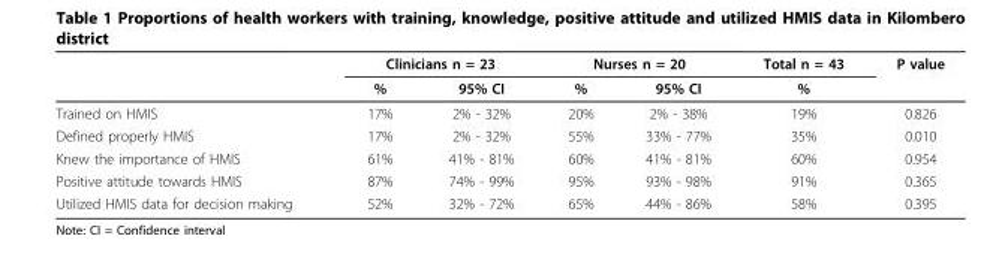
<table><thead><tr><td rowspan="2"></td><td colspan="2">Clinicians n = 23</td><td colspan="2">Nurses n = 20</td><td rowspan="2">Total n = 43 %</td><td rowspan="2">P value</td></tr><tr><td>%</td><td>95% CI</td><td>%</td><td>95% CI</td></tr></thead><tbody><tr><td>Trained on HMIS</td><td>17%</td><td>2% - 32%</td><td>20%</td><td>2% - 38%</td><td>19%</td><td>0.826</td></tr><tr><td>Defined properly HMIS</td><td>17%</td><td>2% - 32%</td><td>55%</td><td>33% - 77%</td><td>35%</td><td>0.010</td></tr><tr><td>Knew the importance of HMIS</td><td>61%</td><td>41% - 81%</td><td>60%</td><td>41% - 81%</td><td>60%</td><td>0.954</td></tr><tr><td>Positive attitude towards HMIS</td><td>87%</td><td>74% - 99%</td><td>95%</td><td>93% - 98%</td><td>91%</td><td>0.365</td></tr><tr><td>Utilized HMIS data for decision making</td><td>52%</td><td>32% - 72%</td><td>65%</td><td>44% - 86%</td><td>58%</td><td>0.395</td></tr></tbody></table>